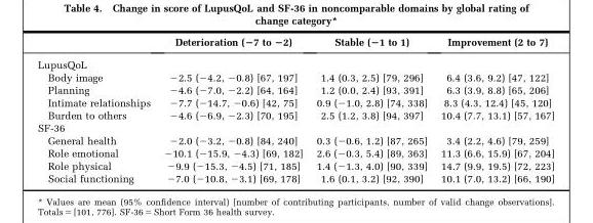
<table><thead><tr><td></td><td>Deterioration (−7 to −2)</td><td>Stable (−1 to 1)</td><td>Improvement (2 to 7)</td></tr></thead><tbody><tr><td colspan="4">LupusQoL</td></tr><tr><td>Body image</td><td>−2.5 (−4.2, −0.8) [67, 197]</td><td>1.4 (0.3, 2.5) [79, 296]</td><td>6.4 (3.6, 9.2) [47, 122]</td></tr><tr><td>Planning</td><td>−4.6 (−7.0, −2.2) [64, 164]</td><td>1.2 (0.0, 2.4) [93, 391]</td><td>6.3 (3.9, 8.8) [65, 206]</td></tr><tr><td>Intimate relationships</td><td>−7.7 (−14.7, −0.6) [42, 75]</td><td>0.9 (−1.0, 2.8) [74, 338]</td><td>8.3 (4.3, 12.4) [45, 120]</td></tr><tr><td>Burden to others</td><td>−4.6 (−6.9, −2.3) [70, 195]</td><td>2.5 (1.2, 3.8) [94, 397]</td><td>10.4 (7.7, 13.1) [57, 167]</td></tr><tr><td colspan="4">SF-36</td></tr><tr><td>General health</td><td>−2.0 (−3.2, −0.8) [84, 240]</td><td>0.3 (−0.6, 1.2) [87, 265]</td><td>3.4 (2.2, 4.6) [79, 259]</td></tr><tr><td>Role emotional</td><td>−10.1 (−15.9, −4.3) [69, 182]</td><td>2.6 (−0.3, 5.4) [89, 363]</td><td>11.3 (6.6, 15.9) [67, 204]</td></tr><tr><td>Role physical</td><td>−9.9 (−15.3, −4.5) [71, 185]</td><td>1.4 (−1.3, 4.0) [90, 339]</td><td>14.7 (9.9, 19.5) [72, 223]</td></tr><tr><td>Social functioning</td><td>−7.0 (−10.8, −3.1) [69, 178]</td><td>1.6 (0.1, 3.2) [92, 390]</td><td>10.1 (7.0, 13.2) [66, 190]</td></tr></tbody></table>